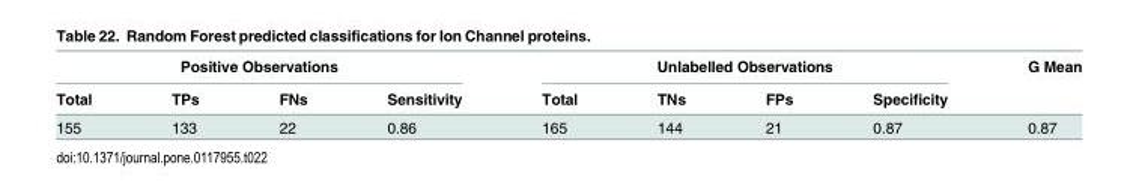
<table><thead><tr><td colspan="4">Positive Observations</td><td colspan="4">Unlabelled Observations</td><td rowspan="2">G Mean</td></tr><tr><td>Total</td><td>TPs</td><td>FNs</td><td>Sensitivity</td><td>Total</td><td>TNs</td><td>FPs</td><td>Specificity</td></tr></thead><tbody><tr><td>155</td><td>133</td><td>22</td><td>0.86</td><td>165</td><td>144</td><td>21</td><td>0.87</td><td>0.87</td></tr></tbody></table>